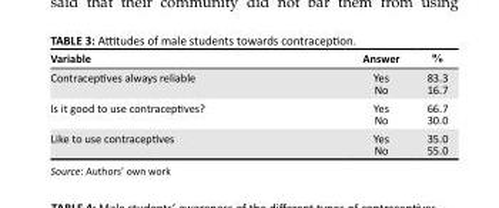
<table><thead><tr><td>Variable</td><td>Answer</td><td>%</td></tr></thead><tbody><tr><td>Contraceptives always reliable</td><td>Yes No</td><td>83.3 16.7</td></tr><tr><td>Is it good to use contraceptives?</td><td>Yes No</td><td>66.7 30.0</td></tr><tr><td>Like to use contraceptives</td><td>Yes No</td><td>35.0 55.0</td></tr></tbody></table>